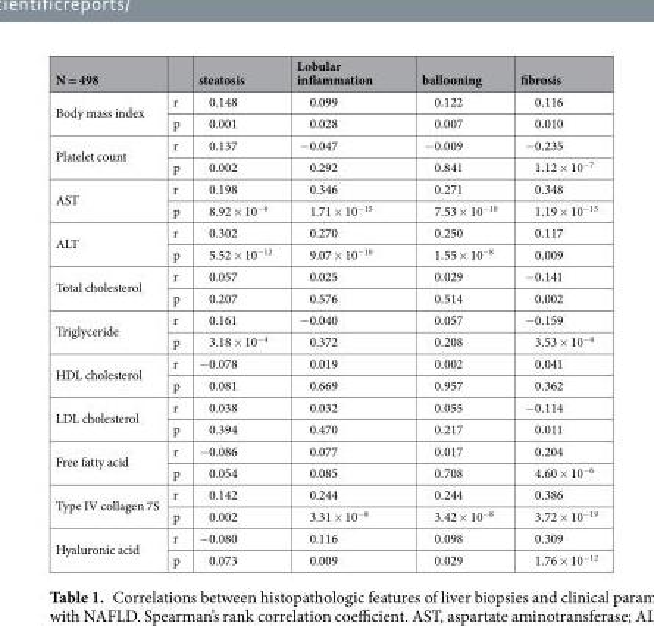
<table><thead><tr><td>N = 498</td><td></td><td>steatosis</td><td>Lobular inflammation</td><td>ballooning</td><td>fibrosis</td></tr></thead><tbody><tr><td rowspan="2">Body mass index</td><td>r</td><td>0.148</td><td>0.099</td><td>0.122</td><td>0.116</td></tr><tr><td>p</td><td>0.001</td><td>0.028</td><td>0.007</td><td>0.010</td></tr><tr><td rowspan="2">Platelet count</td><td>r</td><td>0.137</td><td>−0.047</td><td>−0.009</td><td>−0.235</td></tr><tr><td>p</td><td>0.002</td><td>0.292</td><td>0.841</td><td>1.12 × 10<sup>−7</sup></td></tr><tr><td rowspan="2">AST</td><td>r</td><td>0.198</td><td>0.346</td><td>0.271</td><td>0.348</td></tr><tr><td>p</td><td>8.92 × 10<sup>−6</sup></td><td>1.71 × 10<sup>−15</sup></td><td>7.53 × 10<sup>−10</sup></td><td>1.19 × 10<sup>−15</sup></td></tr><tr><td rowspan="2">ALT</td><td>r</td><td>0.302</td><td>0.270</td><td>0.250</td><td>0.117</td></tr><tr><td>p</td><td>5.52 × 10<sup>−12</sup></td><td>9.07 × 10<sup>−10</sup></td><td>1.55 × 10<sup>−8</sup></td><td>0.009</td></tr><tr><td rowspan="2">Total cholesterol</td><td>r</td><td>0.057</td><td>0.025</td><td>0.029</td><td>−0.141</td></tr><tr><td>p</td><td>0.207</td><td>0.576</td><td>0.514</td><td>0.002</td></tr><tr><td rowspan="2">Triglyceride</td><td>r</td><td>0.161</td><td>−0.040</td><td>0.057</td><td>−0.159</td></tr><tr><td>p</td><td>3.18 × 10<sup>−4</sup></td><td>0.372</td><td>0.208</td><td>3.53 × 10<sup>−4</sup></td></tr><tr><td rowspan="2">HDL cholesterol</td><td>r</td><td>−0.078</td><td>0.019</td><td>0.002</td><td>0.041</td></tr><tr><td>p</td><td>0.081</td><td>0.669</td><td>0.957</td><td>0.362</td></tr><tr><td rowspan="2">LDL cholesterol</td><td>r</td><td>0.038</td><td>0.032</td><td>0.055</td><td>−0.114</td></tr><tr><td>p</td><td>0.394</td><td>0.470</td><td>0.217</td><td>0.011</td></tr><tr><td rowspan="2">Free fatty acid</td><td>r</td><td>−0.086</td><td>0.077</td><td>0.017</td><td>0.204</td></tr><tr><td>p</td><td>0.054</td><td>0.085</td><td>0.708</td><td>4.60 × 10<sup>−6</sup></td></tr><tr><td rowspan="2">Type IV collagen 7S</td><td>r</td><td>0.142</td><td>0.244</td><td>0.244</td><td>0.386</td></tr><tr><td>p</td><td>0.002</td><td>3.31 × 10<sup>−8</sup></td><td>3.42 × 10<sup>−8</sup></td><td>3.72 × 10<sup>−19</sup></td></tr><tr><td rowspan="2">Hyaluronic acid</td><td>r</td><td>−0.080</td><td>0.116</td><td>0.098</td><td>0.309</td></tr><tr><td>p</td><td>0.073</td><td>0.009</td><td>0.029</td><td>1.76 × 10<sup>−12</sup></td></tr></tbody></table>